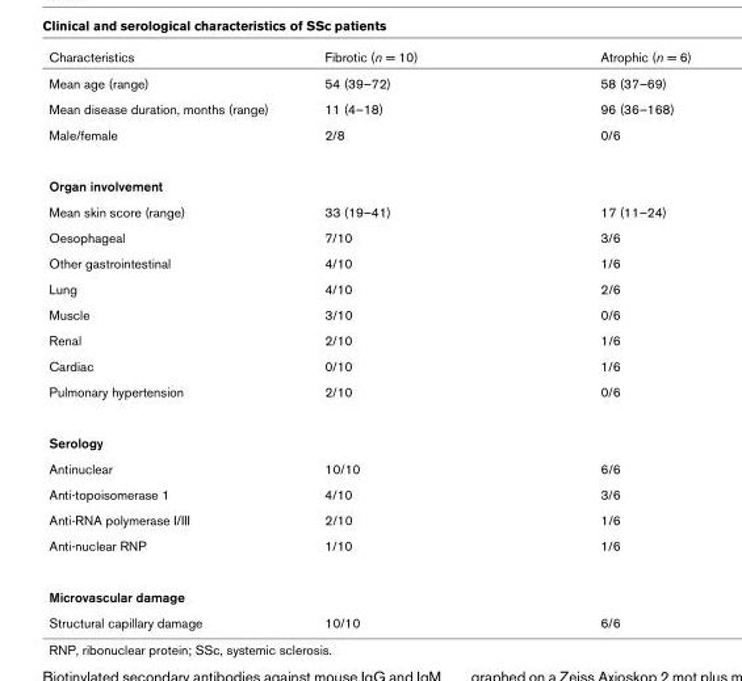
<table><thead><tr><td>Characteristics</td><td>Fibrotic (n = 10)</td><td>Atrophic (n = 6)</td></tr></thead><tbody><tr><td>Mean age (range)</td><td>54 (39–72)</td><td>58 (37–69)</td></tr><tr><td>Mean disease duration, months (range)</td><td>11 (4–18)</td><td>96 (36–168)</td></tr><tr><td>Male/female</td><td>2/8</td><td>0/6</td></tr><tr><td colspan="3">Organ involvement</td></tr><tr><td>Mean skin score (range)</td><td>33 (19–41)</td><td>17 (11–24)</td></tr><tr><td>Oesophageal</td><td>7/10</td><td>3/6</td></tr><tr><td>Other gastrointestinal</td><td>4/10</td><td>1/6</td></tr><tr><td>Lung</td><td>4/10</td><td>2/6</td></tr><tr><td>Muscle</td><td>3/10</td><td>0/6</td></tr><tr><td>Renal</td><td>2/10</td><td>1/6</td></tr><tr><td>Cardiac</td><td>0/10</td><td>1/6</td></tr><tr><td>Pulmonary hypertension</td><td>2/10</td><td>0/6</td></tr><tr><td colspan="3">Serology</td></tr><tr><td>Antinuclear</td><td>10/10</td><td>6/6</td></tr><tr><td>Anti-topoisomerase 1</td><td>4/10</td><td>3/6</td></tr><tr><td>Anti-RNA polymerase I/III</td><td>2/10</td><td>1/6</td></tr><tr><td>Anti-nuclear RNP</td><td>1/10</td><td>1/6</td></tr><tr><td colspan="3">Microvascular damage</td></tr><tr><td>Structural capillary damage</td><td>10/10</td><td>6/6</td></tr></tbody></table>